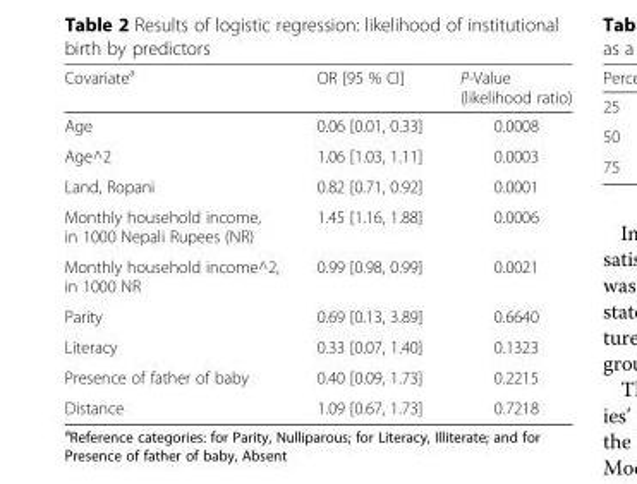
<table><thead><tr><td>Covariate<sup>a</sup></td><td>OR [95 % CI]</td><td>P-Value (likelihood ratio)</td></tr></thead><tbody><tr><td>Age</td><td>0.06 [0.01, 0.33]</td><td>0.0008</td></tr><tr><td>Age^2</td><td>1.06 [1.03, 1.11]</td><td>0.0003</td></tr><tr><td>Land, Ropani</td><td>0.82 [0.71, 0.92]</td><td>0.0001</td></tr><tr><td>Monthly household income, in 1000 Nepali Rupees (NR)</td><td>1.45 [1.16, 1.88]</td><td>0.0006</td></tr><tr><td>Monthly household income^2, in 1000 NR</td><td>0.99 [0.98, 0.99]</td><td>0.0021</td></tr><tr><td>Parity</td><td>0.69 [0.13, 3.89]</td><td>0.6640</td></tr><tr><td>Literacy</td><td>0.33 [0.07, 1.40]</td><td>0.1323</td></tr><tr><td>Presence of father of baby</td><td>0.40 [0.09, 1.73]</td><td>0.2215</td></tr><tr><td>Distance</td><td>1.09 [0.67, 1.73]</td><td>0.7218</td></tr></tbody></table>